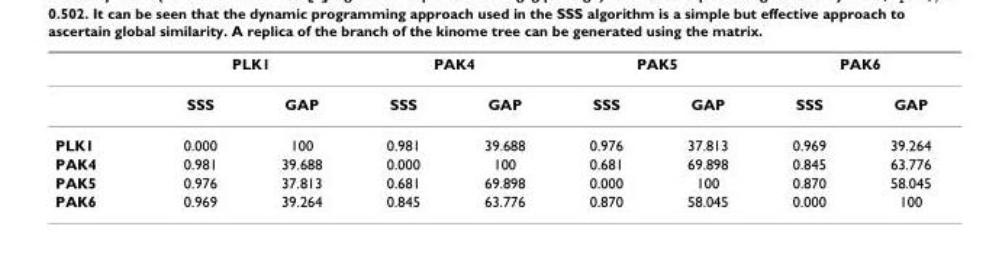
<table><thead><tr><td rowspan="2"></td><td colspan="2">PLK1</td><td colspan="2">PAK4</td><td colspan="2">PAK5</td><td colspan="2">PAK6</td></tr><tr><td>SSS</td><td>GAP</td><td>SSS</td><td>GAP</td><td>SSS</td><td>GAP</td><td>SSS</td><td>GAP</td></tr></thead><tbody><tr><td>PLK1</td><td>0.000</td><td>100</td><td>0.981</td><td>39.688</td><td>0.976</td><td>37.813</td><td>0.969</td><td>39.264</td></tr><tr><td>PAK4</td><td>0.981</td><td>39.688</td><td>0.000</td><td>100</td><td>0.681</td><td>69.898</td><td>0.845</td><td>63.776</td></tr><tr><td>PAK5</td><td>0.976</td><td>37.813</td><td>0.681</td><td>69.898</td><td>0.000</td><td>100</td><td>0.870</td><td>58.045</td></tr><tr><td>PAK6</td><td>0.969</td><td>39.264</td><td>0.845</td><td>63.776</td><td>0.870</td><td>58.045</td><td>0.000</td><td>100</td></tr></tbody></table>